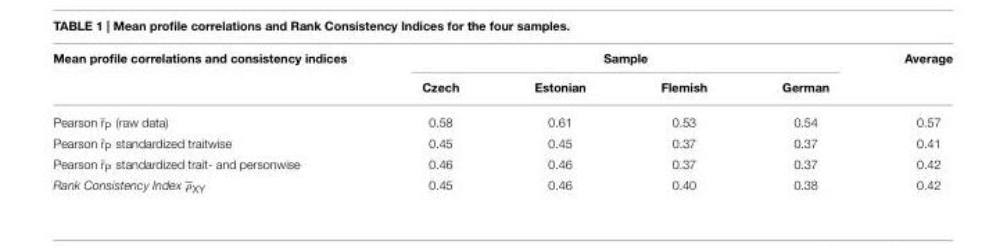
<table><thead><tr><td rowspan="2">Mean profile correlations and consistency indices</td><td colspan="4">Sample</td><td rowspan="2">Average</td></tr><tr><td>Czech</td><td>Estonian</td><td>Flemish</td><td>German</td></tr></thead><tbody><tr><td>Pearson r<sub>P</sub> (raw data)</td><td>0.58</td><td>0.61</td><td>0.53</td><td>0.54</td><td>0.57</td></tr><tr><td>Pearson r<sub>P</sub> standardized traitwise</td><td>0.45</td><td>0.45</td><td>0.37</td><td>0.37</td><td>0.41</td></tr><tr><td>Pearson r<sub>P</sub> standardized trait- and personwise</td><td>0.46</td><td>0.46</td><td>0.37</td><td>0.37</td><td>0.42</td></tr><tr><td>Rank Consistency Index ρ<sub>XY</sub></td><td>0.45</td><td>0.46</td><td>0.40</td><td>0.38</td><td>0.42</td></tr></tbody></table>